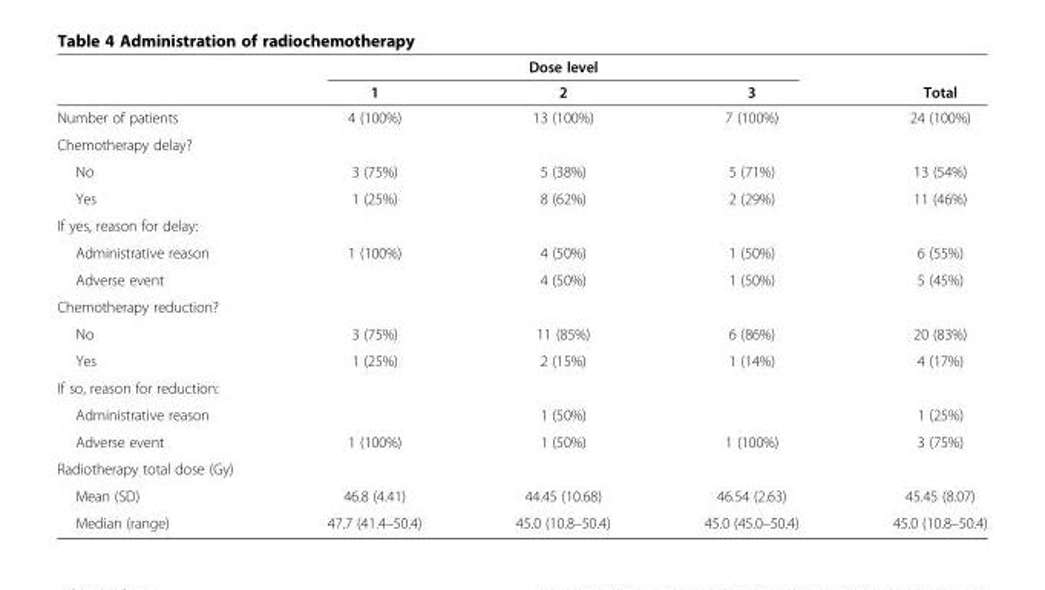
<table><thead><tr><td rowspan="2"></td><td colspan="3">Dose level</td><td rowspan="2">Total</td></tr><tr><td>1</td><td>2</td><td>3</td></tr></thead><tbody><tr><td>Number of patients</td><td>4 (100%)</td><td>13 (100%)</td><td>7 (100%)</td><td>24 (100%)</td></tr><tr><td colspan="5">Chemotherapy delay?</td></tr><tr><td>No</td><td>3 (75%)</td><td>5 (38%)</td><td>5 (71%)</td><td>13 (54%)</td></tr><tr><td>Yes</td><td>1 (25%)</td><td>8 (62%)</td><td>2 (29%)</td><td>11 (46%)</td></tr><tr><td colspan="5">If yes, reason for delay:</td></tr><tr><td>Administrative reason</td><td>1 (100%)</td><td>4 (50%)</td><td>1 (50%)</td><td>6 (55%)</td></tr><tr><td>Adverse event</td><td></td><td>4 (50%)</td><td>1 (50%)</td><td>5 (45%)</td></tr><tr><td colspan="5">Chemotherapy reduction?</td></tr><tr><td>No</td><td>3 (75%)</td><td>11 (85%)</td><td>6 (86%)</td><td>20 (83%)</td></tr><tr><td>Yes</td><td>1 (25%)</td><td>2 (15%)</td><td>1 (14%)</td><td>4 (17%)</td></tr><tr><td colspan="5">If so, reason for reduction:</td></tr><tr><td>Administrative reason</td><td></td><td>1 (50%)</td><td></td><td>1 (25%)</td></tr><tr><td>Adverse event</td><td>1 (100%)</td><td>1 (50%)</td><td>1 (100%)</td><td>3 (75%)</td></tr><tr><td colspan="5">Radiotherapy total dose (Gy)</td></tr><tr><td>Mean (SD)</td><td>46.8 (4.41)</td><td>44.45 (10.68)</td><td>46.54 (2.63)</td><td>45.45 (8.07)</td></tr><tr><td>Median (range)</td><td>47.7 (41.4–50.4)</td><td>45.0 (10.8–50.4)</td><td>45.0 (45.0–50.4)</td><td>45.0 (10.8–50.4)</td></tr></tbody></table>